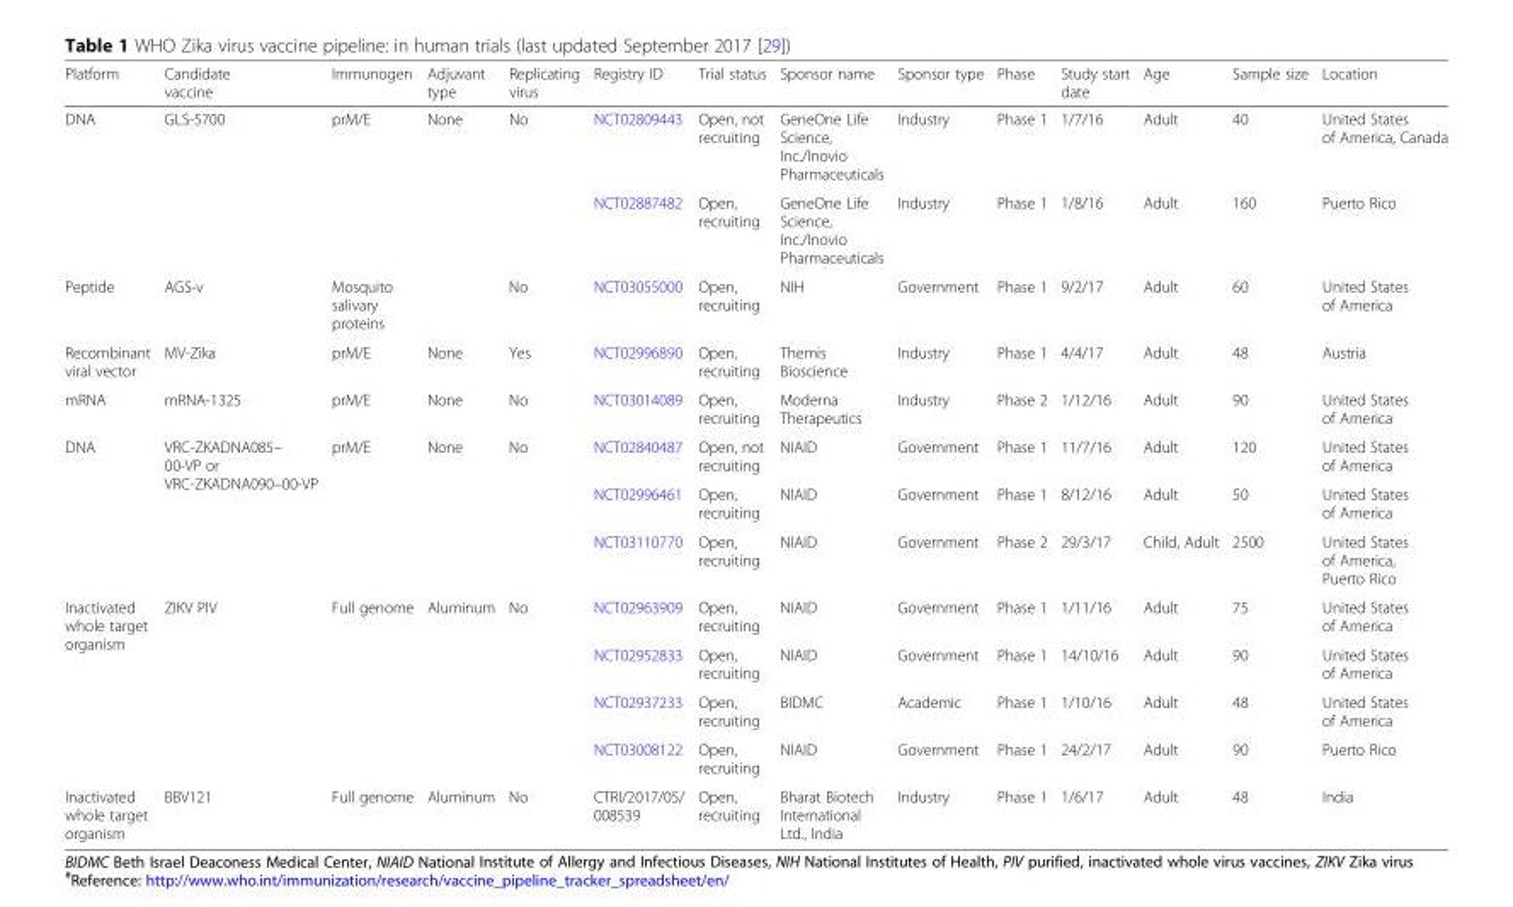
<table><thead><tr><td>Platform</td><td>Candidate vaccine</td><td>Immunogen</td><td>Adjuvant type</td><td>Replicating virus</td><td>Registry ID</td><td>Trial status</td><td>Sponsor name</td><td>Sponsor type</td><td>Phase</td><td>Study start date</td><td>Age</td><td>Sample size</td><td>Location</td></tr></thead><tbody><tr><td rowspan="2">DNA</td><td rowspan="2">GLS-5700</td><td rowspan="2">prM/E</td><td rowspan="2">None</td><td rowspan="2">No</td><td>NCT02809443</td><td>Open, not recruiting</td><td>GeneOne Life Science, Inc./Inovio Pharmaceuticals</td><td>Industry</td><td>Phase 1</td><td>1/7/16</td><td>Adult</td><td>40</td><td>United States of America, Canada</td></tr><tr><td>NCT02887482</td><td>Open, recruiting</td><td>GeneOne Life Science, Inc./Inovio Pharmaceuticals</td><td>Industry</td><td>Phase 1</td><td>1/8/16</td><td>Adult</td><td>160</td><td>Puerto Rico</td></tr><tr><td>Peptide</td><td>AGS-v</td><td>Mosquito salivary proteins</td><td></td><td>No</td><td>NCT03055000</td><td>Open, recruiting</td><td>NIH</td><td>Government</td><td>Phase 1</td><td>9/2/17</td><td>Adult</td><td>60</td><td>United States of America</td></tr><tr><td>Recombinant viral vector</td><td>MV-Zika</td><td>prM/E</td><td>None</td><td>Yes</td><td>NCT02996890</td><td>Open, recruiting</td><td>Themis Bioscience</td><td>Industry</td><td>Phase 1</td><td>4/4/17</td><td>Adult</td><td>48</td><td>Austria</td></tr><tr><td>mRNA</td><td>mRNA-1325</td><td>prM/E</td><td>None</td><td>No</td><td>NCT03014089</td><td>Open, recruiting</td><td>Moderna Therapeutics</td><td>Industry</td><td>Phase 2</td><td>1/12/16</td><td>Adult</td><td>90</td><td>United States of America</td></tr><tr><td rowspan="3">DNA</td><td rowspan="3">VRC-ZKADNA085– 00-VP or VRC-ZKADNA090–00-VP</td><td rowspan="3">prM/E</td><td rowspan="3">None</td><td rowspan="3">No</td><td>NCT02840487</td><td>Open, not recruiting</td><td>NIAID</td><td>Government</td><td>Phase 1</td><td>11/7/16</td><td>Adult</td><td>120</td><td>United States of America</td></tr><tr><td>NCT02996461</td><td>Open, recruiting</td><td>NIAID</td><td>Government</td><td>Phase 1</td><td>8/12/16</td><td>Adult</td><td>50</td><td>United States of America</td></tr><tr><td>NCT03110770</td><td>Open, recruiting</td><td>NIAID</td><td>Government</td><td>Phase 2</td><td>29/3/17</td><td>Child, Adult</td><td>2500</td><td>United States of America, Puerto Rico</td></tr><tr><td rowspan="4">Inactivated whole target organism</td><td rowspan="4">ZIKV PIV</td><td rowspan="4">Full genome</td><td rowspan="4">Aluminum</td><td rowspan="4">No</td><td>NCT02963909</td><td>Open, recruiting</td><td>NIAID</td><td>Government</td><td>Phase 1</td><td>1/11/16</td><td>Adult</td><td>75</td><td>United States of America</td></tr><tr><td>NCT02952833</td><td>Open, recruiting</td><td>NIAID</td><td>Government</td><td>Phase 1</td><td>14/10/16</td><td>Adult</td><td>90</td><td>United States of America</td></tr><tr><td>NCT02937233</td><td>Open, recruiting</td><td>BIDMC</td><td>Academic</td><td>Phase 1</td><td>1/10/16</td><td>Adult</td><td>48</td><td>United States of America</td></tr><tr><td>NCT03008122</td><td>Open, recruiting</td><td>NIAID</td><td>Government</td><td>Phase 1</td><td>24/2/17</td><td>Adult</td><td>90</td><td>Puerto Rico</td></tr><tr><td>Inactivated whole target organism</td><td>BBV121</td><td>Full genome</td><td>Aluminum</td><td>No</td><td>CTRI/2017/05/ 008539</td><td>Open, recruiting</td><td>Bharat Biotech International Ltd., India</td><td>Industry</td><td>Phase 1</td><td>1/6/17</td><td>Adult</td><td>48</td><td>India</td></tr></tbody></table>